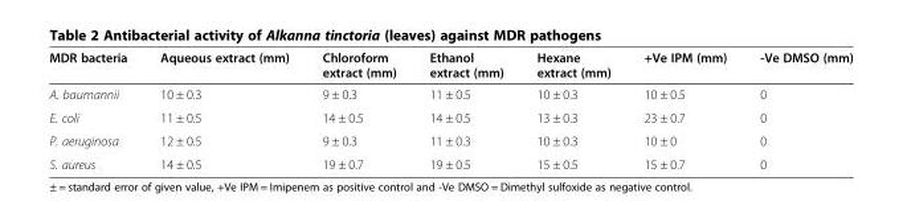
<table><thead><tr><td>MDR bacteria</td><td>Aqueous extract (mm)</td><td>Chloroform extract (mm)</td><td>Ethanol extract (mm)</td><td>Hexane extract (mm)</td><td>+Ve IPM (mm)</td><td>-Ve DMSO (mm)</td></tr></thead><tbody><tr><td>A. baumannii</td><td>10 ± 0.3</td><td>9 ± 0.3</td><td>11 ± 0.5</td><td>10 ± 0.3</td><td>10 ± 0.5</td><td>0</td></tr><tr><td>E. coli</td><td>11 ± 0.5</td><td>14 ± 0.5</td><td>14 ± 0.5</td><td>13 ± 0.3</td><td>23 ± 0.7</td><td>0</td></tr><tr><td>P. aeruginosa</td><td>12 ± 0.5</td><td>9 ± 0.3</td><td>11 ± 0.3</td><td>10 ± 0.3</td><td>10 ± 0</td><td>0</td></tr><tr><td>S. aureus</td><td>14 ± 0.5</td><td>19 ± 0.7</td><td>19 ± 0.5</td><td>15 ± 0.5</td><td>15 ± 0.7</td><td>0</td></tr></tbody></table>